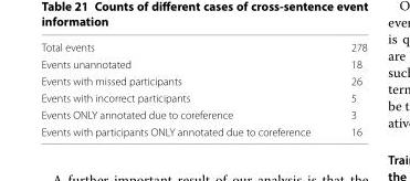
<table><tbody><tr><td>Total events</td><td>278</td></tr><tr><td>Events unannotated</td><td>18</td></tr><tr><td>Events with missed participants</td><td>26</td></tr><tr><td>Events with incorrect participants</td><td>5</td></tr><tr><td>Events ONLY annotated due to coreference</td><td>3</td></tr><tr><td>Events with participants ONLY annotated due to coreference</td><td>16</td></tr></tbody></table>